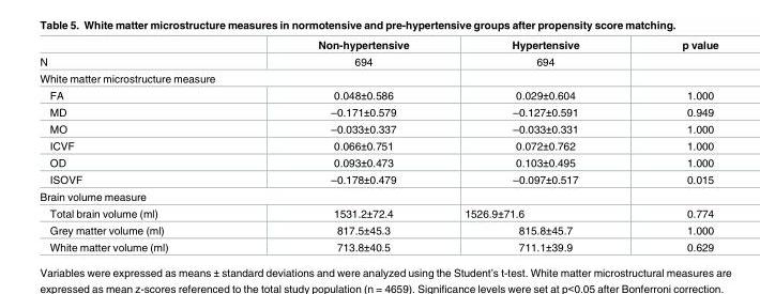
<table><thead><tr><td></td><td>Non-hypertensive</td><td>Hypertensive</td><td>p value</td></tr></thead><tbody><tr><td>N</td><td>694</td><td>694</td><td></td></tr><tr><td colspan="4">White matter microstructure measure</td></tr><tr><td>FA</td><td>0.048±0.586</td><td>0.029±0.604</td><td>1.000</td></tr><tr><td>MD</td><td>–0.171±0.579</td><td>–0.127±0.591</td><td>0.949</td></tr><tr><td>MO</td><td>–0.033±0.337</td><td>–0.033±0.331</td><td>1.000</td></tr><tr><td>ICVF</td><td>0.066±0.751</td><td>0.072±0.762</td><td>1.000</td></tr><tr><td>OD</td><td>0.093±0.473</td><td>0.103±0.495</td><td>1.000</td></tr><tr><td>ISOVF</td><td>–0.178±0.479</td><td>–0.097±0.517</td><td>0.015</td></tr><tr><td colspan="4">Brain volume measure</td></tr><tr><td>Total brain volume (ml)</td><td>1531.2±72.4</td><td>1526.9±71.6</td><td>0.774</td></tr><tr><td>Grey matter volume (ml)</td><td>817.5±45.3</td><td>815.8±45.7</td><td>1.000</td></tr><tr><td>White matter volume (ml)</td><td>713.8±40.5</td><td>711.1±39.9</td><td>0.629</td></tr></tbody></table>